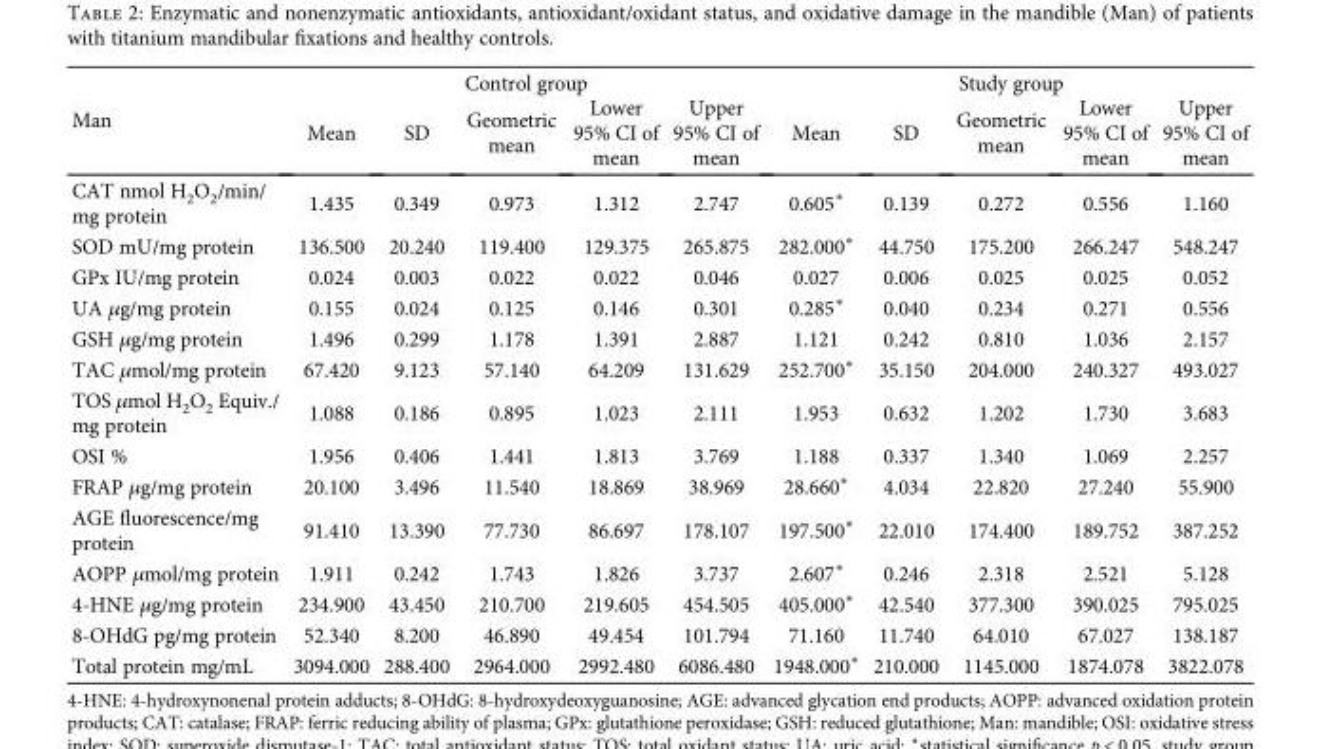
<table><thead><tr><td rowspan="2">Man</td><td colspan="5">Control group</td><td colspan="5">Study group</td></tr><tr><td>Mean</td><td>SD</td><td>Geometric mean</td><td>Lower 95% CI of mean</td><td>Upper 95% CI of mean</td><td>Mean</td><td>SD</td><td>Geometric mean</td><td>Lower 95% CI of mean</td><td>Upper 95% CI of mean</td></tr></thead><tbody><tr><td>CAT nmol H<sub>2</sub>O<sub>2</sub>/min/ mg protein</td><td>1.435</td><td>0.349</td><td>0.973</td><td>1.312</td><td>2.747</td><td>0.605∗</td><td>0.139</td><td>0.272</td><td>0.556</td><td>1.160</td></tr><tr><td>SOD mU/mg protein</td><td>136.500</td><td>20.240</td><td>119.400</td><td>129.375</td><td>265.875</td><td>282.000∗</td><td>44.750</td><td>175.200</td><td>266.247</td><td>548.247</td></tr><tr><td>GPx IU/mg protein</td><td>0.024</td><td>0.003</td><td>0.022</td><td>0.022</td><td>0.046</td><td>0.027</td><td>0.006</td><td>0.025</td><td>0.025</td><td>0.052</td></tr><tr><td>UA μg/mg protein</td><td>0.155</td><td>0.024</td><td>0.125</td><td>0.146</td><td>0.301</td><td>0.285∗</td><td>0.040</td><td>0.234</td><td>0.271</td><td>0.556</td></tr><tr><td>GSH μg/mg protein</td><td>1.496</td><td>0.299</td><td>1.178</td><td>1.391</td><td>2.887</td><td>1.121</td><td>0.242</td><td>0.810</td><td>1.036</td><td>2.157</td></tr><tr><td>TAC μmol/mg protein</td><td>67.420</td><td>9.123</td><td>57.140</td><td>64.209</td><td>131.629</td><td>252.700∗</td><td>35.150</td><td>204.000</td><td>240.327</td><td>493.027</td></tr><tr><td>TOS μmol H<sub>2</sub>O<sub>2</sub> Equiv./ mg protein</td><td>1.088</td><td>0.186</td><td>0.895</td><td>1.023</td><td>2.111</td><td>1.953</td><td>0.632</td><td>1.202</td><td>1.730</td><td>3.683</td></tr><tr><td>OSI %</td><td>1.956</td><td>0.406</td><td>1.441</td><td>1.813</td><td>3.769</td><td>1.188</td><td>0.337</td><td>1.340</td><td>1.069</td><td>2.257</td></tr><tr><td>FRAP μg/mg protein</td><td>20.100</td><td>3.496</td><td>11.540</td><td>18.869</td><td>38.969</td><td>28.660∗</td><td>4.034</td><td>22.820</td><td>27.240</td><td>55.900</td></tr><tr><td>AGE fluorescence/mg protein</td><td>91.410</td><td>13.390</td><td>77.730</td><td>86.697</td><td>178.107</td><td>197.500∗</td><td>22.010</td><td>174.400</td><td>189.752</td><td>387.252</td></tr><tr><td>AOPP μmol/mg protein</td><td>1.911</td><td>0.242</td><td>1.743</td><td>1.826</td><td>3.737</td><td>2.607∗</td><td>0.246</td><td>2.318</td><td>2.521</td><td>5.128</td></tr><tr><td>4-HNE μg/mg protein</td><td>234.900</td><td>43.450</td><td>210.700</td><td>219.605</td><td>454.505</td><td>405.000∗</td><td>42.540</td><td>377.300</td><td>390.025</td><td>795.025</td></tr><tr><td>8-OHdG pg/mg protein</td><td>52.340</td><td>8.200</td><td>46.890</td><td>49.454</td><td>101.794</td><td>71.160</td><td>11.740</td><td>64.010</td><td>67.027</td><td>138.187</td></tr><tr><td>Total protein mg/mL</td><td>3094.000</td><td>288.400</td><td>2964.000</td><td>2992.480</td><td>6086.480</td><td>1948.000∗</td><td>210.000</td><td>1145.000</td><td>1874.078</td><td>3822.078</td></tr></tbody></table>